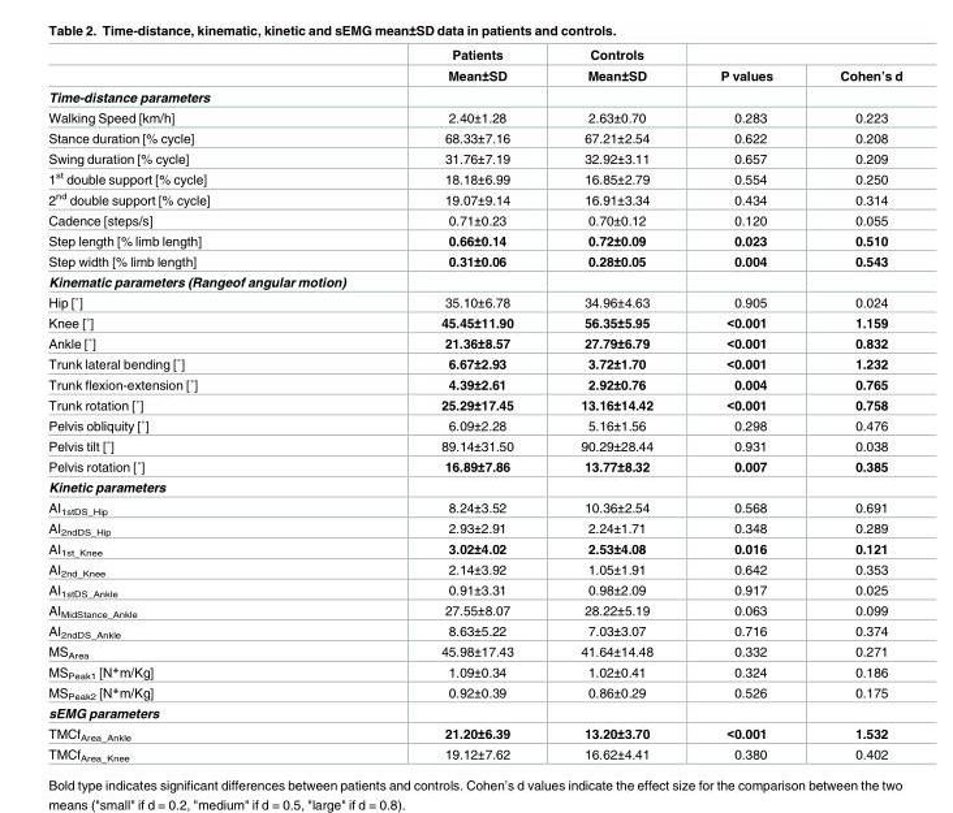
<table><thead><tr><td rowspan="2"></td><td rowspan="2">Patients Mean±SD</td><td rowspan="2">Controls Mean±SD</td><td rowspan="2">P values</td><td rowspan="2">Cohen’s d</td></tr><tr></tr></thead><tbody><tr><td colspan="5">Time-distance parameters</td></tr><tr><td>Walking Speed [km/h]</td><td>2.40±1.28</td><td>2.63±0.70</td><td>0.283</td><td>0.223</td></tr><tr><td>Stance duration [% cycle]</td><td>68.33±7.16</td><td>67.21±2.54</td><td>0.622</td><td>0.208</td></tr><tr><td>Swing duration [% cycle]</td><td>31.76±7.19</td><td>32.92±3.11</td><td>0.657</td><td>0.209</td></tr><tr><td>1<sup>st</sup> double support [% cycle]</td><td>18.18±6.99</td><td>16.85±2.79</td><td>0.554</td><td>0.250</td></tr><tr><td>2<sup>nd</sup> double support [% cycle]</td><td>19.07±9.14</td><td>16.91±3.34</td><td>0.434</td><td>0.314</td></tr><tr><td>Cadence [steps/s]</td><td>0.71±0.23</td><td>0.70±0.12</td><td>0.120</td><td>0.055</td></tr><tr><td>Step length [% limb length]</td><td>0.66±0.14</td><td>0.72±0.09</td><td>0.023</td><td>0.510</td></tr><tr><td>Step width [% limb length]</td><td>0.31±0.06</td><td>0.28±0.05</td><td>0.004</td><td>0.543</td></tr><tr><td colspan="5">Kinematic parameters (Rangeof angular motion)</td></tr><tr><td>Hip [˚]</td><td>35.10±6.78</td><td>34.96±4.63</td><td>0.905</td><td>0.024</td></tr><tr><td>Knee [˚]</td><td>45.45±11.90</td><td>56.35±5.95</td><td>&lt;0.001</td><td>1.159</td></tr><tr><td>Ankle [˚]</td><td>21.36±8.57</td><td>27.79±6.79</td><td>&lt;0.001</td><td>0.832</td></tr><tr><td>Trunk lateral bending [˚]</td><td>6.67±2.93</td><td>3.72±1.70</td><td>&lt;0.001</td><td>1.232</td></tr><tr><td>Trunk flexion-extension [˚]</td><td>4.39±2.61</td><td>2.92±0.76</td><td>0.004</td><td>0.765</td></tr><tr><td>Trunk rotation [˚]</td><td>25.29±17.45</td><td>13.16±14.42</td><td>&lt;0.001</td><td>0.758</td></tr><tr><td>Pelvis obliquity [˚]</td><td>6.09±2.28</td><td>5.16±1.56</td><td>0.298</td><td>0.476</td></tr><tr><td>Pelvis tilt [˚]</td><td>89.14±31.50</td><td>90.29±28.44</td><td>0.931</td><td>0.038</td></tr><tr><td>Pelvis rotation [˚]</td><td>16.89±7.86</td><td>13.77±8.32</td><td>0.007</td><td>0.385</td></tr><tr><td colspan="5">Kinetic parameters</td></tr><tr><td>AI<sub>1stDS_Hip</sub></td><td>8.24±3.52</td><td>10.36±2.54</td><td>0.568</td><td>0.691</td></tr><tr><td>AI<sub>2ndDS_Hip</sub></td><td>2.93±2.91</td><td>2.24±1.71</td><td>0.348</td><td>0.289</td></tr><tr><td>AI<sub>1st_Knee</sub></td><td>3.02±4.02</td><td>2.53±4.08</td><td>0.016</td><td>0.121</td></tr><tr><td>AI<sub>2nd_Knee</sub></td><td>2.14±3.92</td><td>1.05±1.91</td><td>0.642</td><td>0.353</td></tr><tr><td>AI<sub>1stDS_Ankle</sub></td><td>0.91±3.31</td><td>0.98±2.09</td><td>0.917</td><td>0.025</td></tr><tr><td>AI<sub>MidStance_Ankle</sub></td><td>27.55±8.07</td><td>28.22±5.19</td><td>0.063</td><td>0.099</td></tr><tr><td>AI<sub>2ndDS_Ankle</sub></td><td>8.63±5.22</td><td>7.03±3.07</td><td>0.716</td><td>0.374</td></tr><tr><td>MS<sub>Area</sub></td><td>45.98±17.43</td><td>41.64±14.48</td><td>0.332</td><td>0.271</td></tr><tr><td>MS<sub>Peak1</sub> [N*m/Kg]</td><td>1.09±0.34</td><td>1.02±0.41</td><td>0.324</td><td>0.186</td></tr><tr><td>MS<sub>Peak2</sub> [N*m/Kg]</td><td>0.92±0.39</td><td>0.86±0.29</td><td>0.526</td><td>0.175</td></tr><tr><td colspan="5">sEMG parameters</td></tr><tr><td>TMCf<sub>Area_Ankle</sub></td><td>21.20±6.39</td><td>13.20±3.70</td><td>&lt;0.001</td><td>1.532</td></tr><tr><td>TMCf<sub>Area_Knee</sub></td><td>19.12±7.62</td><td>16.62±4.41</td><td>0.380</td><td>0.402</td></tr></tbody></table>